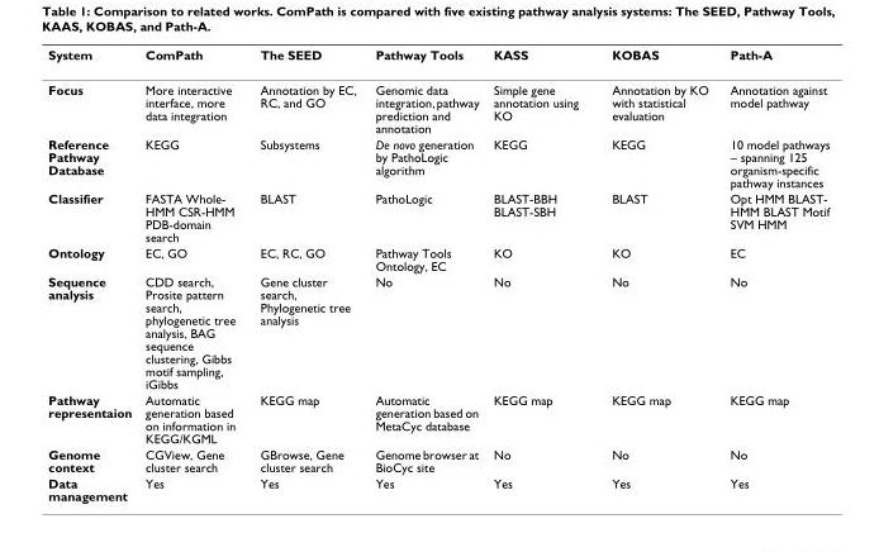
<table><thead><tr><td>System</td><td>ComPath</td><td>The SEED</td><td>Pathway Tools</td><td>KASS</td><td>KOBAS</td><td>Path-A</td></tr></thead><tbody><tr><td>Focus</td><td>More interactive interface, more data integration</td><td>Annotation by EC, RC, and GO</td><td>Genomic data integration, pathway prediction and annotation</td><td>Simple gene annotation using KO</td><td>Annotation by KO with statistical evaluation</td><td>Annotation against model pathway</td></tr><tr><td>Reference Pathway Database</td><td>KEGG</td><td>Subsystems</td><td>De novo generation by PathoLogic algorithm</td><td>KEGG</td><td>KEGG</td><td>10 model pathways – spanning 125 organism-specific pathway instances</td></tr><tr><td>Classifier</td><td>FASTA Whole- HMM CSR-HMM PDB-domain search</td><td>BLAST</td><td>PathoLogic</td><td>BLAST-BBH BLAST-SBH</td><td>BLAST</td><td>Opt HMM BLAST- HMM BLAST Motif SVM HMM</td></tr><tr><td>Ontology</td><td>EC, GO</td><td>EC, RC, GO</td><td>Pathway Tools Ontology, EC</td><td>KO</td><td>KO</td><td>EC</td></tr><tr><td>Sequence analysis</td><td>CDD search, Prosite pattern search, phylogenetic tree analysis, BAG sequence clustering, Gibbs motif sampling, iGibbs</td><td>Gene cluster search, Phylogenetic tree analysis</td><td>No</td><td>No</td><td>No</td><td>No</td></tr><tr><td>Pathway representaion</td><td>Automatic generation based on information in KEGG/KGML</td><td>KEGG map</td><td>Automatic generation based on MetaCyc database</td><td>KEGG map</td><td>KEGG map</td><td>KEGG map</td></tr><tr><td>Genome context</td><td>CGView, Gene cluster search</td><td>GBrowse, Gene cluster search</td><td>Genome browser at BioCyc site</td><td>No</td><td>No</td><td>No</td></tr><tr><td>Data management</td><td>Yes</td><td>Yes</td><td>Yes</td><td>Yes</td><td>Yes</td><td>Yes</td></tr></tbody></table>